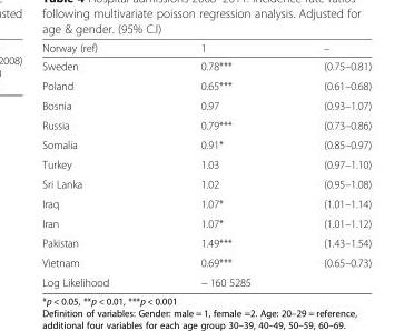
<table><thead><tr><td>Norway (ref)</td><td>1</td><td>–</td></tr></thead><tbody><tr><td>Sweden</td><td>0.78***</td><td>(0.75–0.81)</td></tr><tr><td>Poland</td><td>0.65***</td><td>(0.61–0.68)</td></tr><tr><td>Bosnia</td><td>0.97</td><td>(0.93–1.07)</td></tr><tr><td>Russia</td><td>0.79***</td><td>(0.73–0.86)</td></tr><tr><td>Somalia</td><td>0.91*</td><td>(0.85–0.97)</td></tr><tr><td>Turkey</td><td>1.03</td><td>(0.97–1.10)</td></tr><tr><td>Sri Lanka</td><td>1.02</td><td>(0.95–1.08)</td></tr><tr><td>Iraq</td><td>1.07*</td><td>(1.01–1.14)</td></tr><tr><td>Iran</td><td>1.07*</td><td>(1.01–1.12)</td></tr><tr><td>Pakistan</td><td>1.49***</td><td>(1.43–1.54)</td></tr><tr><td>Vietnam</td><td>0.69***</td><td>(0.65–0.73)</td></tr><tr><td>Log Likelihood</td><td colspan="2">− 160 5285</td></tr></tbody></table>